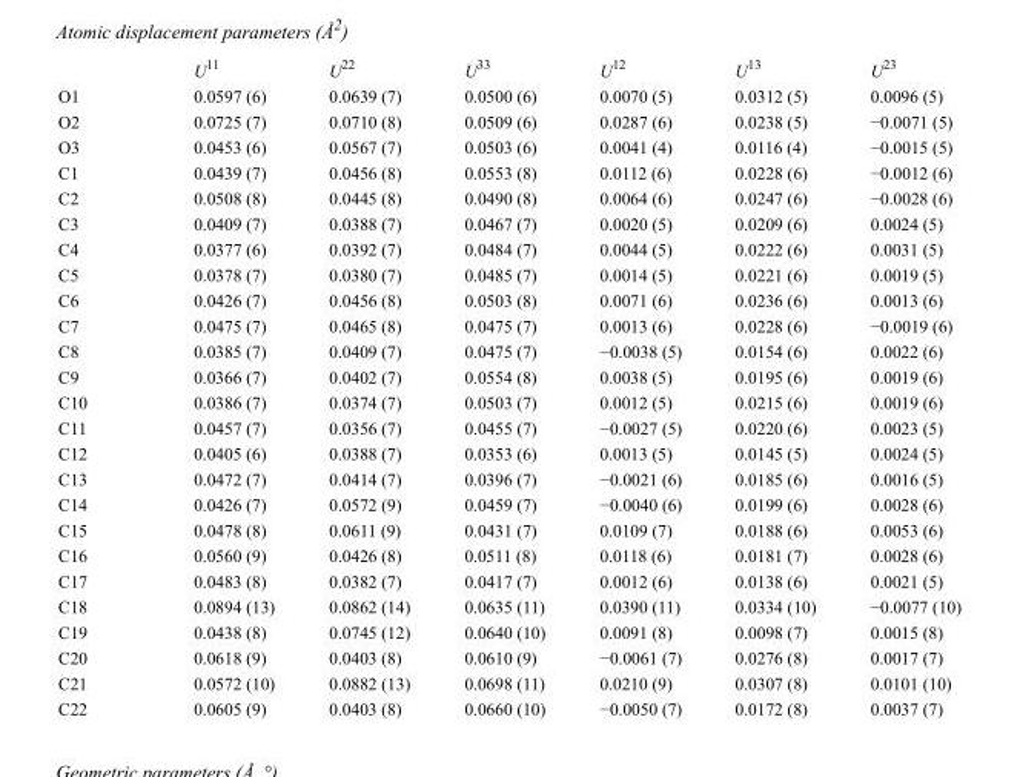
<table><thead><tr><td></td><td>U<sup>11</sup></td><td>U<sup>22</sup></td><td>U<sup>33</sup></td><td>U<sup>12</sup></td><td>U<sup>13</sup></td><td>U<sup>23</sup></td></tr></thead><tbody><tr><td>O1</td><td>0.0597 (6)</td><td>0.0639 (7)</td><td>0.0500 (6)</td><td>0.0070 (5)</td><td>0.0312 (5)</td><td>0.0096 (5)</td></tr><tr><td>O2</td><td>0.0725 (7)</td><td>0.0710 (8)</td><td>0.0509 (6)</td><td>0.0287 (6)</td><td>0.0238 (5)</td><td>−0.0071 (5)</td></tr><tr><td>O3</td><td>0.0453 (6)</td><td>0.0567 (7)</td><td>0.0503 (6)</td><td>0.0041 (4)</td><td>0.0116 (4)</td><td>−0.0015 (5)</td></tr><tr><td>C1</td><td>0.0439 (7)</td><td>0.0456 (8)</td><td>0.0553 (8)</td><td>0.0112 (6)</td><td>0.0228 (6)</td><td>−0.0012 (6)</td></tr><tr><td>C2</td><td>0.0508 (8)</td><td>0.0445 (8)</td><td>0.0490 (8)</td><td>0.0064 (6)</td><td>0.0247 (6)</td><td>−0.0028 (6)</td></tr><tr><td>C3</td><td>0.0409 (7)</td><td>0.0388 (7)</td><td>0.0467 (7)</td><td>0.0020 (5)</td><td>0.0209 (6)</td><td>0.0024 (5)</td></tr><tr><td>C4</td><td>0.0377 (6)</td><td>0.0392 (7)</td><td>0.0484 (7)</td><td>0.0044 (5)</td><td>0.0222 (6)</td><td>0.0031 (5)</td></tr><tr><td>C5</td><td>0.0378 (7)</td><td>0.0380 (7)</td><td>0.0485 (7)</td><td>0.0014 (5)</td><td>0.0221 (6)</td><td>0.0019 (5)</td></tr><tr><td>C6</td><td>0.0426 (7)</td><td>0.0456 (8)</td><td>0.0503 (8)</td><td>0.0071 (6)</td><td>0.0236 (6)</td><td>0.0013 (6)</td></tr><tr><td>C7</td><td>0.0475 (7)</td><td>0.0465 (8)</td><td>0.0475 (7)</td><td>0.0013 (6)</td><td>0.0228 (6)</td><td>−0.0019 (6)</td></tr><tr><td>C8</td><td>0.0385 (7)</td><td>0.0409 (7)</td><td>0.0475 (7)</td><td>−0.0038 (5)</td><td>0.0154 (6)</td><td>0.0022 (6)</td></tr><tr><td>C9</td><td>0.0366 (7)</td><td>0.0402 (7)</td><td>0.0554 (8)</td><td>0.0038 (5)</td><td>0.0195 (6)</td><td>0.0019 (6)</td></tr><tr><td>C10</td><td>0.0386 (7)</td><td>0.0374 (7)</td><td>0.0503 (7)</td><td>0.0012 (5)</td><td>0.0215 (6)</td><td>0.0019 (6)</td></tr><tr><td>C11</td><td>0.0457 (7)</td><td>0.0356 (7)</td><td>0.0455 (7)</td><td>−0.0027 (5)</td><td>0.0220 (6)</td><td>0.0023 (5)</td></tr><tr><td>C12</td><td>0.0405 (6)</td><td>0.0388 (7)</td><td>0.0353 (6)</td><td>0.0013 (5)</td><td>0.0145 (5)</td><td>0.0024 (5)</td></tr><tr><td>C13</td><td>0.0472 (7)</td><td>0.0414 (7)</td><td>0.0396 (7)</td><td>−0.0021 (6)</td><td>0.0185 (6)</td><td>0.0016 (5)</td></tr><tr><td>C14</td><td>0.0426 (7)</td><td>0.0572 (9)</td><td>0.0459 (7)</td><td>−0.0040 (6)</td><td>0.0199 (6)</td><td>0.0028 (6)</td></tr><tr><td>C15</td><td>0.0478 (8)</td><td>0.0611 (9)</td><td>0.0431 (7)</td><td>0.0109 (7)</td><td>0.0188 (6)</td><td>0.0053 (6)</td></tr><tr><td>C16</td><td>0.0560 (9)</td><td>0.0426 (8)</td><td>0.0511 (8)</td><td>0.0118 (6)</td><td>0.0181 (7)</td><td>0.0028 (6)</td></tr><tr><td>C17</td><td>0.0483 (8)</td><td>0.0382 (7)</td><td>0.0417 (7)</td><td>0.0012 (6)</td><td>0.0138 (6)</td><td>0.0021 (5)</td></tr><tr><td>C18</td><td>0.0894 (13)</td><td>0.0862 (14)</td><td>0.0635 (11)</td><td>0.0390 (11)</td><td>0.0334 (10)</td><td>−0.0077 (10)</td></tr><tr><td>C19</td><td>0.0438 (8)</td><td>0.0745 (12)</td><td>0.0640 (10)</td><td>0.0091 (8)</td><td>0.0098 (7)</td><td>0.0015 (8)</td></tr><tr><td>C20</td><td>0.0618 (9)</td><td>0.0403 (8)</td><td>0.0610 (9)</td><td>−0.0061 (7)</td><td>0.0276 (8)</td><td>0.0017 (7)</td></tr><tr><td>C21</td><td>0.0572 (10)</td><td>0.0882 (13)</td><td>0.0698 (11)</td><td>0.0210 (9)</td><td>0.0307 (8)</td><td>0.0101 (10)</td></tr><tr><td>C22</td><td>0.0605 (9)</td><td>0.0403 (8)</td><td>0.0660 (10)</td><td>−0.0050 (7)</td><td>0.0172 (8)</td><td>0.0037 (7)</td></tr></tbody></table>